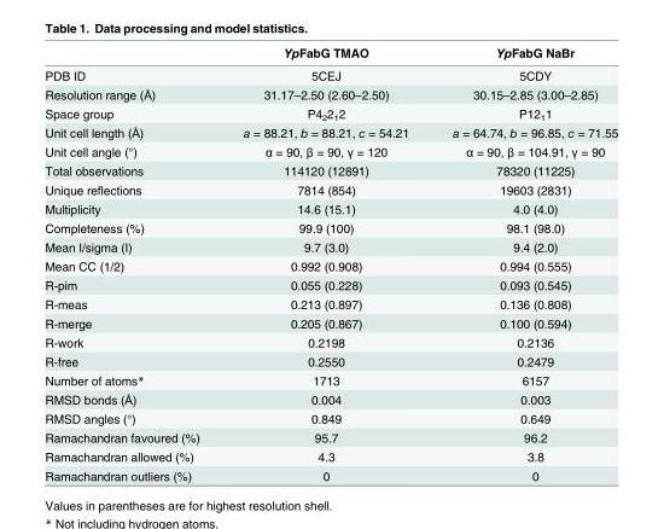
<table><thead><tr><td></td><td>YpFabG TMAO</td><td>YpFabG NaBr</td></tr></thead><tbody><tr><td>PDB ID</td><td>5CEJ</td><td>5CDY</td></tr><tr><td>Resolution range (Å)</td><td>31.17–2.50 (2.60–2.50)</td><td>30.15–2.85 (3.00–2.85)</td></tr><tr><td>Space group</td><td>P4<sub>2</sub>2<sub>1</sub>2</td><td>P12<sub>1</sub>1</td></tr><tr><td>Unit cell length (Å)</td><td>a = 88.21, b = 88.21, c = 54.21</td><td>a = 64.74, b = 96.85, c = 71.55</td></tr><tr><td>Unit cell angle (°)</td><td>α = 90, β = 90, γ = 120</td><td>α = 90, β = 104.91, γ = 90</td></tr><tr><td>Total observations</td><td>114120 (12891)</td><td>78320 (11225)</td></tr><tr><td>Unique reflections</td><td>7814 (854)</td><td>19603 (2831)</td></tr><tr><td>Multiplicity</td><td>14.6 (15.1)</td><td>4.0 (4.0)</td></tr><tr><td>Completeness (%)</td><td>99.9 (100)</td><td>98.1 (98.0)</td></tr><tr><td>Mean I/sigma (I)</td><td>9.7 (3.0)</td><td>9.4 (2.0)</td></tr><tr><td>Mean CC (1/2)</td><td>0.992 (0.908)</td><td>0.994 (0.555)</td></tr><tr><td>R-pim</td><td>0.055 (0.228)</td><td>0.093 (0.545)</td></tr><tr><td>R-meas</td><td>0.213 (0.897)</td><td>0.136 (0.808)</td></tr><tr><td>R-merge</td><td>0.205 (0.867)</td><td>0.100 (0.594)</td></tr><tr><td>R-work</td><td>0.2198</td><td>0.2136</td></tr><tr><td>R-free</td><td>0.2550</td><td>0.2479</td></tr><tr><td>Number of atoms*</td><td>1713</td><td>6157</td></tr><tr><td>RMSD bonds (Å)</td><td>0.004</td><td>0.003</td></tr><tr><td>RMSD angles (°)</td><td>0.849</td><td>0.649</td></tr><tr><td>Ramachandran favoured (%)</td><td>95.7</td><td>96.2</td></tr><tr><td>Ramachandran allowed (%)</td><td>4.3</td><td>3.8</td></tr><tr><td>Ramachandran outliers (%)</td><td>0</td><td>0</td></tr></tbody></table>